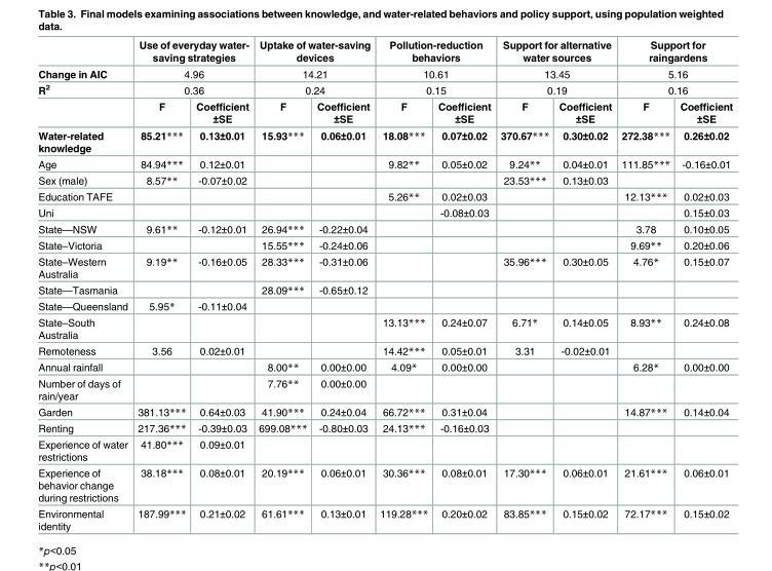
<table><thead><tr><td rowspan="4">Change in AIC R<sup>2</sup></td><td rowspan="3" colspan="2">Use of everyday water- saving strategies 4.96 0.36</td><td rowspan="3" colspan="2">Uptake of water-saving devices 14.21 0.24</td><td rowspan="3" colspan="2">Pollution-reduction behaviors 10.61 0.15</td><td rowspan="3" colspan="2">Support for alternative water sources 13.45 0.19</td><td rowspan="3" colspan="2">Support for raingardens 5.16 0.16</td></tr><tr></tr><tr></tr><tr><td>F</td><td>Coefficient ±SE</td><td>F</td><td>Coefficient ±SE</td><td>F</td><td>Coefficient ±SE</td><td>F</td><td>Coefficient ±SE</td><td>F</td><td>Coefficient ±SE</td></tr></thead><tbody><tr><td>Water-related knowledge</td><td>85.21***</td><td>0.13±0.01</td><td>15.93***</td><td>0.06±0.01</td><td>18.08***</td><td>0.07±0.02</td><td>370.67***</td><td>0.30±0.02</td><td>272.38***</td><td>0.26±0.02</td></tr><tr><td>Age</td><td>84.94***</td><td>0.12±0.01</td><td></td><td></td><td>9.82**</td><td>0.05±0.02</td><td>9.24**</td><td>0.04±0.01</td><td>111.85***</td><td>-0.16±0.01</td></tr><tr><td>Sex (male)</td><td>8.57**</td><td>-0.07±0.02</td><td></td><td></td><td></td><td></td><td>23.53***</td><td>0.13±0.03</td><td></td><td></td></tr><tr><td>Education TAFE</td><td></td><td></td><td></td><td></td><td>5.26**</td><td>0.02±0.03</td><td></td><td></td><td>12.13***</td><td>0.02±0.03</td></tr><tr><td>Uni</td><td></td><td></td><td></td><td></td><td></td><td>-0.08±0.03</td><td></td><td></td><td></td><td>0.15±0.03</td></tr><tr><td>State—NSW</td><td>9.61**</td><td>-0.12±0.01</td><td>26.94***</td><td>-0.22±0.04</td><td></td><td></td><td></td><td></td><td>3.78</td><td>0.10±0.05</td></tr><tr><td>State–Victoria</td><td></td><td></td><td>15.55***</td><td>-0.24±0.06</td><td></td><td></td><td></td><td></td><td>9.69**</td><td>0.20±0.06</td></tr><tr><td>State–Western Australia</td><td>9.19**</td><td>-0.16±0.05</td><td>28.33***</td><td>-0.31±0.06</td><td></td><td></td><td>35.96***</td><td>0.30±0.05</td><td>4.76*</td><td>0.15±0.07</td></tr><tr><td>State—Tasmania</td><td></td><td></td><td>28.09***</td><td>-0.65±0.12</td><td></td><td></td><td></td><td></td><td></td><td></td></tr><tr><td>State—Queensland</td><td>5.95*</td><td>-0.11±0.04</td><td></td><td></td><td></td><td></td><td></td><td></td><td></td><td></td></tr><tr><td>State–South Australia</td><td></td><td></td><td></td><td></td><td>13.13***</td><td>0.24±0.07</td><td>6.71*</td><td>0.14±0.05</td><td>8.93**</td><td>0.24±0.08</td></tr><tr><td>Remoteness</td><td>3.56</td><td>0.02±0.01</td><td></td><td></td><td>14.42***</td><td>0.05±0.01</td><td>3.31</td><td>-0.02±0.01</td><td></td><td></td></tr><tr><td>Annual rainfall</td><td></td><td></td><td>8.00**</td><td>0.00±0.00</td><td>4.09*</td><td>0.00±0.00</td><td></td><td></td><td>6.28*</td><td>0.00±0.00</td></tr><tr><td>Number of days of rain/year</td><td></td><td></td><td>7.76**</td><td>0.00±0.00</td><td></td><td></td><td></td><td></td><td></td><td></td></tr><tr><td>Garden</td><td>381.13***</td><td>0.64±0.03</td><td>41.90***</td><td>0.24±0.04</td><td>66.72***</td><td>0.31±0.04</td><td></td><td></td><td>14.87***</td><td>0.14±0.04</td></tr><tr><td>Renting</td><td>217.36***</td><td>-0.39±0.03</td><td>699.08***</td><td>-0.80±0.03</td><td>24.13***</td><td>-0.16±0.03</td><td></td><td></td><td></td><td></td></tr><tr><td>Experience of water restrictions</td><td>41.80***</td><td>0.09±0.01</td><td></td><td></td><td></td><td></td><td></td><td></td><td></td><td></td></tr><tr><td>Experience of behavior change during restrictions</td><td>38.18***</td><td>0.08±0.01</td><td>20.19***</td><td>0.06±0.01</td><td>30.36***</td><td>0.08±0.01</td><td>17.30***</td><td>0.06±0.01</td><td>21.61***</td><td>0.06±0.01</td></tr><tr><td>Environmental identity</td><td>187.99***</td><td>0.21±0.02</td><td>61.61***</td><td>0.13±0.01</td><td>119.28***</td><td>0.20±0.02</td><td>83.85***</td><td>0.15±0.02</td><td>72.17***</td><td>0.15±0.02</td></tr></tbody></table>